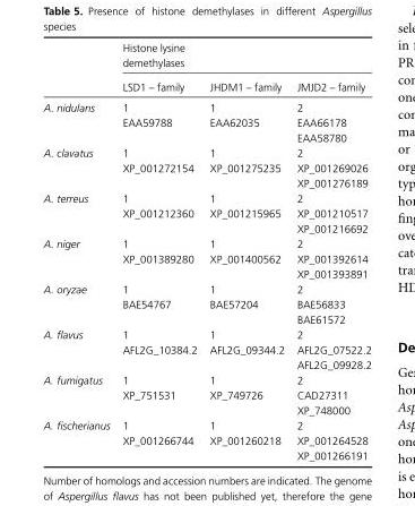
<table><thead><tr><td rowspan="2"></td><td colspan="3">Histone lysine demethylases</td></tr><tr><td>LSD1 – family</td><td>JHDM1 – family</td><td>JMJD2 – family</td></tr></thead><tbody><tr><td>A. nidulans</td><td>1 EAA59788</td><td>1 EAA62035</td><td>2 EAA66178 EAA58780</td></tr><tr><td>A. clavatus</td><td>1 XP_001272154</td><td>1 XP_001275235</td><td>2 XP_001269026 XP_001276189</td></tr><tr><td>A. terreus</td><td>1 XP_001212360</td><td>1 XP_001215965</td><td>2 XP_001210517 XP_001216692</td></tr><tr><td>A. niger</td><td>1 XP_001389280</td><td>1 XP_001400562</td><td>2 XP_001392614 XP_001393891</td></tr><tr><td>A. oryzae</td><td>1 BAE54767</td><td>1 BAE57204</td><td>2 BAE56833 BAE61572</td></tr><tr><td>A. flavus</td><td>1 AFL2G_10384.2</td><td>1 AFL2G_09344.2</td><td>2 AFL2G_07522.2 AFL2G_09928.2</td></tr><tr><td>A. fumigatus</td><td>1 XP_751531</td><td>1 XP_749726</td><td>2 CAD27311 XP_748000</td></tr><tr><td>A. fischerianus</td><td>1 XP_001266744</td><td>1 XP_001260218</td><td>2 XP_001264528 XP_001266191</td></tr></tbody></table>